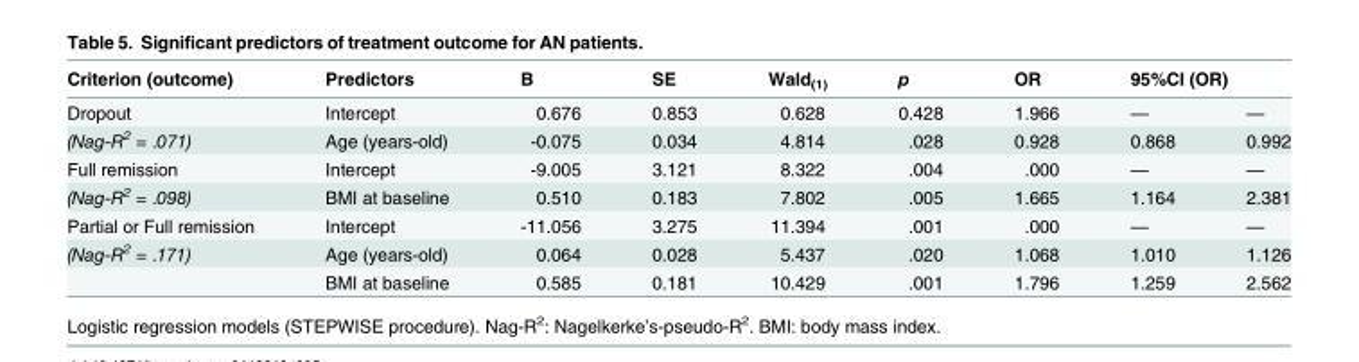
<table><thead><tr><td rowspan="2">Criterion (outcome) Dropout</td><td rowspan="2">Predictors Intercept</td><td rowspan="2">B 0.676</td><td rowspan="2">SE 0.853</td><td rowspan="2">Wald<sub>(1)</sub> 0.628</td><td rowspan="2">p 0.428</td><td rowspan="2">OR 1.966</td><td colspan="2">95%CI (OR)</td></tr><tr><td>—</td><td>—</td></tr></thead><tbody><tr><td>(Nag-R<sup>2</sup> = .071)</td><td>Age (years-old)</td><td>-0.075</td><td>0.034</td><td>4.814</td><td>.028</td><td>0.928</td><td>0.868</td><td>0.992</td></tr><tr><td>Full remission</td><td>Intercept</td><td>-9.005</td><td>3.121</td><td>8.322</td><td>.004</td><td>.000</td><td>—</td><td>—</td></tr><tr><td>(Nag-R<sup>2</sup> = .098)</td><td>BMI at baseline</td><td>0.510</td><td>0.183</td><td>7.802</td><td>.005</td><td>1.665</td><td>1.164</td><td>2.381</td></tr><tr><td>Partial or Full remission</td><td>Intercept</td><td>-11.056</td><td>3.275</td><td>11.394</td><td>.001</td><td>.000</td><td>—</td><td>—</td></tr><tr><td rowspan="2">(Nag-R<sup>2</sup> = .171)</td><td>Age (years-old)</td><td>0.064</td><td>0.028</td><td>5.437</td><td>.020</td><td>1.068</td><td>1.010</td><td>1.126</td></tr><tr><td>BMI at baseline</td><td>0.585</td><td>0.181</td><td>10.429</td><td>.001</td><td>1.796</td><td>1.259</td><td>2.562</td></tr></tbody></table>